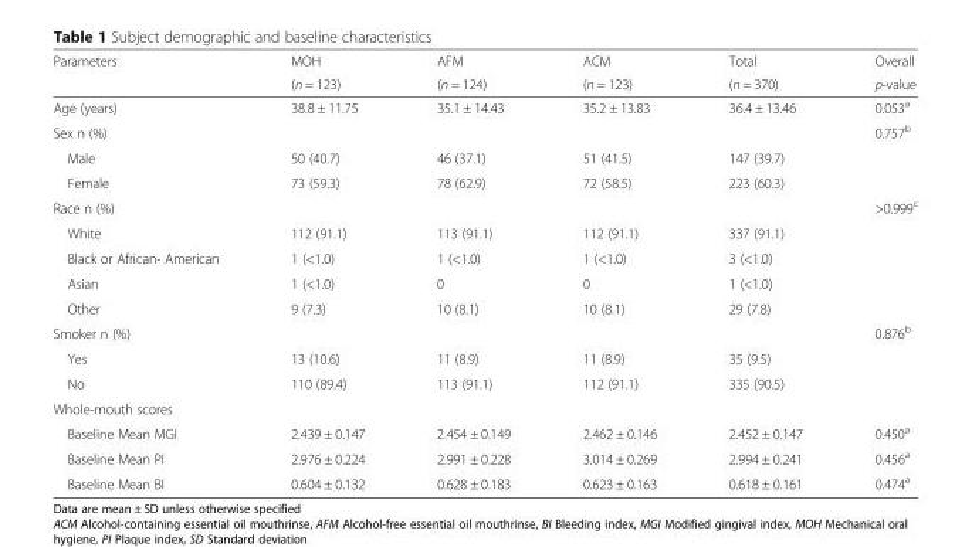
<table><thead><tr><td rowspan="2">Parameters</td><td rowspan="2">MOH (n = 123)</td><td rowspan="2">AFM (n = 124)</td><td rowspan="2">ACM (n = 123)</td><td rowspan="2">Total (n = 370)</td><td rowspan="2">Overall p-value</td></tr><tr></tr></thead><tbody><tr><td>Age (years)</td><td>38.8 ± 11.75</td><td>35.1 ± 14.43</td><td>35.2 ± 13.83</td><td>36.4 ± 13.46</td><td>0.053<sup>a</sup></td></tr><tr><td>Sex n (%)</td><td></td><td></td><td></td><td></td><td>0.757<sup>b</sup></td></tr><tr><td>Male</td><td>50 (40.7)</td><td>46 (37.1)</td><td>51 (41.5)</td><td>147 (39.7)</td><td></td></tr><tr><td>Female</td><td>73 (59.3)</td><td>78 (62.9)</td><td>72 (58.5)</td><td>223 (60.3)</td><td></td></tr><tr><td>Race n (%)</td><td></td><td></td><td></td><td></td><td>&gt;0.999<sup>c</sup></td></tr><tr><td>White</td><td>112 (91.1)</td><td>113 (91.1)</td><td>112 (91.1)</td><td>337 (91.1)</td><td></td></tr><tr><td>Black or African- American</td><td>1 (&lt;1.0)</td><td>1 (&lt;1.0)</td><td>1 (&lt;1.0)</td><td>3 (&lt;1.0)</td><td></td></tr><tr><td>Asian</td><td>1 (&lt;1.0)</td><td>0</td><td>0</td><td>1 (&lt;1.0)</td><td></td></tr><tr><td>Other</td><td>9 (7.3)</td><td>10 (8.1)</td><td>10 (8.1)</td><td>29 (7.8)</td><td></td></tr><tr><td>Smoker n (%)</td><td></td><td></td><td></td><td></td><td>0.876<sup>b</sup></td></tr><tr><td>Yes</td><td>13 (10.6)</td><td>11 (8.9)</td><td>11 (8.9)</td><td>35 (9.5)</td><td></td></tr><tr><td>No</td><td>110 (89.4)</td><td>113 (91.1)</td><td>112 (91.1)</td><td>335 (90.5)</td><td></td></tr><tr><td colspan="6">Whole-mouth scores</td></tr><tr><td>Baseline Mean MGI</td><td>2.439 ± 0.147</td><td>2.454 ± 0.149</td><td>2.462 ± 0.146</td><td>2.452 ± 0.147</td><td>0.450<sup>a</sup></td></tr><tr><td>Baseline Mean PI</td><td>2.976 ± 0.224</td><td>2.991 ± 0.228</td><td>3.014 ± 0.269</td><td>2.994 ± 0.241</td><td>0.456<sup>a</sup></td></tr><tr><td>Baseline Mean BI</td><td>0.604 ± 0.132</td><td>0.628 ± 0.183</td><td>0.623 ± 0.163</td><td>0.618 ± 0.161</td><td>0.474<sup>a</sup></td></tr></tbody></table>